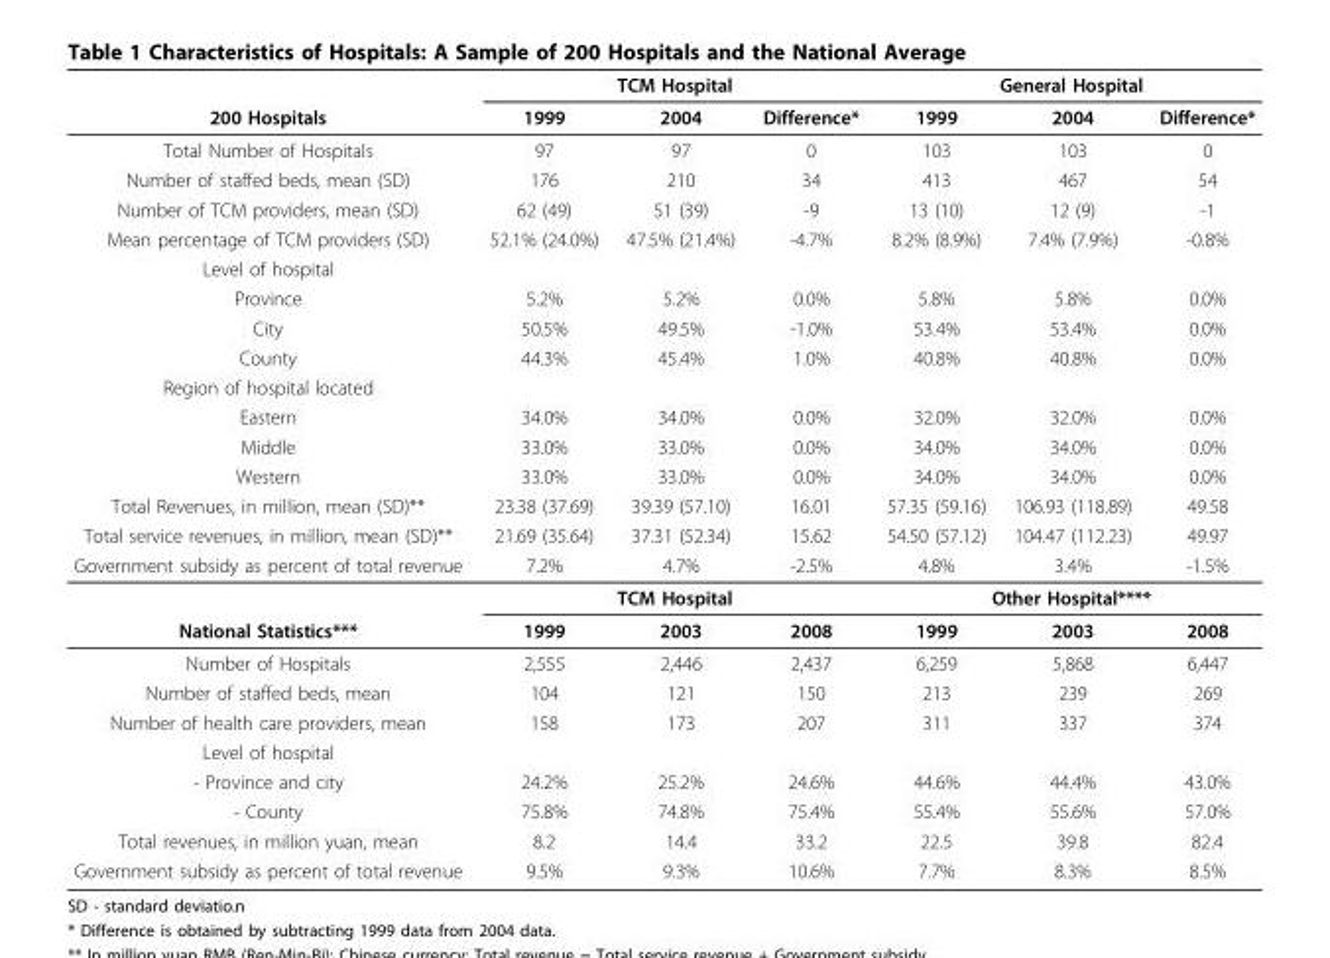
<table><thead><tr><td rowspan="2">200 Hospitals</td><td colspan="3">TCM Hospital</td><td colspan="3">General Hospital</td></tr><tr><td>1999</td><td>2004</td><td>Difference*</td><td>1999</td><td>2004</td><td>Difference*</td></tr></thead><tbody><tr><td>Total Number of Hospitals</td><td>97</td><td>97</td><td>0</td><td>103</td><td>103</td><td>0</td></tr><tr><td>Number of staffed beds, mean (SD)</td><td>176</td><td>210</td><td>34</td><td>413</td><td>467</td><td>54</td></tr><tr><td>Number of TCM providers, mean (SD)</td><td>62 (49)</td><td>51 (39)</td><td>-9</td><td>13 (10)</td><td>12 (9)</td><td>-1</td></tr><tr><td>Mean percentage of TCM providers (SD)</td><td>52.1% (24.0%)</td><td>47.5% (21.4%)</td><td>-4.7%</td><td>8.2% (8.9%)</td><td>7.4% (7.9%)</td><td>-0.8%</td></tr><tr><td colspan="7">Level of hospital</td></tr><tr><td>Province</td><td>5.2%</td><td>5.2%</td><td>0.0%</td><td>5.8%</td><td>5.8%</td><td>0.0%</td></tr><tr><td>City</td><td>50.5%</td><td>49.5%</td><td>-1.0%</td><td>53.4%</td><td>53.4%</td><td>0.0%</td></tr><tr><td>County</td><td>44.3%</td><td>45.4%</td><td>1.0%</td><td>40.8%</td><td>40.8%</td><td>0.0%</td></tr><tr><td colspan="7">Region of hospital located</td></tr><tr><td>Eastern</td><td>34.0%</td><td>34.0%</td><td>0.0%</td><td>32.0%</td><td>32.0%</td><td>0.0%</td></tr><tr><td>Middle</td><td>33.0%</td><td>33.0%</td><td>0.0%</td><td>34.0%</td><td>34.0%</td><td>0.0%</td></tr><tr><td>Western</td><td>33.0%</td><td>33.0%</td><td>0.0%</td><td>34.0%</td><td>34.0%</td><td>0.0%</td></tr><tr><td>Total Revenues, in million, mean (SD)**</td><td>23.38 (37.69)</td><td>39.39 (57.10)</td><td>16.01</td><td>57.35 (59.16)</td><td>106.93 (118.89)</td><td>49.58</td></tr><tr><td>Total service revenues, in million, mean (SD)**</td><td>21.69 (35.64)</td><td>37.31 (52.34)</td><td>15.62</td><td>54.50 (57.12)</td><td>104.47 (112.23)</td><td>49.97</td></tr><tr><td rowspan="2">Government subsidy as percent of total revenue</td><td>7.2%</td><td>4.7%</td><td>-2.5%</td><td>4.8%</td><td>3.4%</td><td>-1.5%</td></tr><tr><td colspan="3">TCM Hospital</td><td colspan="3">Other Hospital****</td></tr><tr><td>National Statistics***</td><td>1999</td><td>2003</td><td>2008</td><td>1999</td><td>2003</td><td>2008</td></tr><tr><td>Number of Hospitals</td><td>2,555</td><td>2,446</td><td>2,437</td><td>6,259</td><td>5,868</td><td>6,447</td></tr><tr><td>Number of staffed beds, mean</td><td>104</td><td>121</td><td>150</td><td>213</td><td>239</td><td>269</td></tr><tr><td>Number of health care providers, mean</td><td>158</td><td>173</td><td>207</td><td>311</td><td>337</td><td>374</td></tr><tr><td colspan="7">Level of hospital</td></tr><tr><td>- Province and city</td><td>24.2%</td><td>25.2%</td><td>24.6%</td><td>44.6%</td><td>44.4%</td><td>43.0%</td></tr><tr><td>- County</td><td>75.8%</td><td>74.8%</td><td>75.4%</td><td>55.4%</td><td>55.6%</td><td>57.0%</td></tr><tr><td>Total revenues, in million yuan, mean</td><td>8.2</td><td>14.4</td><td>33.2</td><td>22.5</td><td>39.8</td><td>82.4</td></tr><tr><td>Government subsidy as percent of total revenue</td><td>9.5%</td><td>9.3%</td><td>10.6%</td><td>7.7%</td><td>8.3%</td><td>8.5%</td></tr></tbody></table>